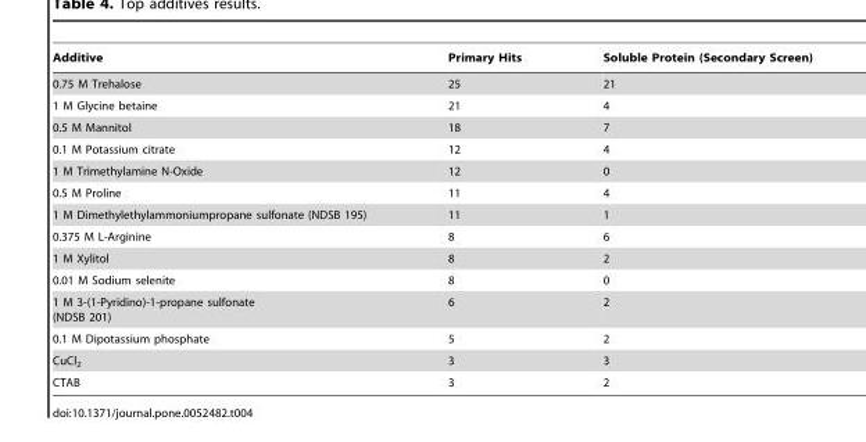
<table><thead><tr><td>Additive</td><td>Primary Hits</td><td>Soluble Protein (Secondary Screen)</td></tr></thead><tbody><tr><td>0.75 M Trehalose</td><td>25</td><td>21</td></tr><tr><td>1 M Glycine betaine</td><td>21</td><td>4</td></tr><tr><td>0.5 M Mannitol</td><td>18</td><td>7</td></tr><tr><td>0.1 M Potassium citrate</td><td>12</td><td>4</td></tr><tr><td>1 M Trimethylamine N-Oxide</td><td>12</td><td>0</td></tr><tr><td>0.5 M Proline</td><td>11</td><td>4</td></tr><tr><td>1 M Dimethylethylammoniumpropane sulfonate (NDSB 195)</td><td>11</td><td>1</td></tr><tr><td>0.375 M L-Arginine</td><td>8</td><td>6</td></tr><tr><td>1 M Xylitol</td><td>8</td><td>2</td></tr><tr><td>0.01 M Sodium selenite</td><td>8</td><td>0</td></tr><tr><td>1 M 3-(1-Pyridino)-1-propane sulfonate (NDSB 201)</td><td>6</td><td>2</td></tr><tr><td>0.1 M Dipotassium phosphate</td><td>5</td><td>2</td></tr><tr><td>CuCl<sub>2</sub></td><td>3</td><td>3</td></tr><tr><td>CTAB</td><td>3</td><td>2</td></tr></tbody></table>